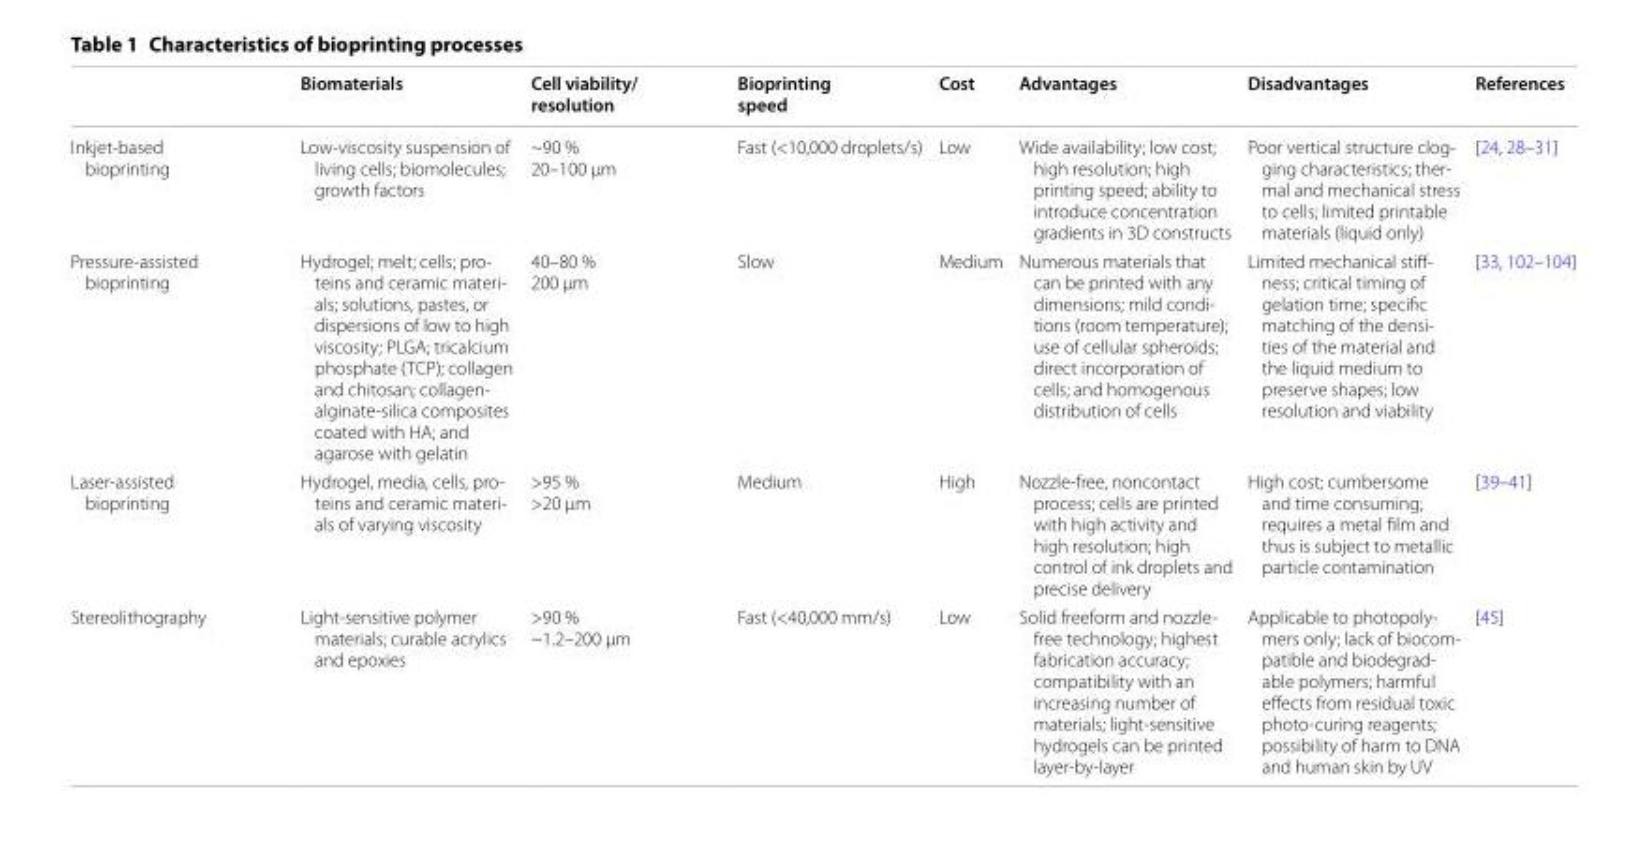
<table><thead><tr><td></td><td>Biomaterials</td><td>Cell viability/ resolution</td><td>Bioprinting speed</td><td>Cost</td><td>Advantages</td><td>Disadvantages</td><td>References</td></tr></thead><tbody><tr><td>Inkjet-based bioprinting</td><td>Low-viscosity suspension of living cells; biomolecules; growth factors</td><td>~90 % 20–100 µm</td><td>Fast (&lt;10,000 droplets/s)</td><td>Low</td><td>Wide availability; low cost; high resolution; high printing speed; ability to introduce concentration gradients in 3D constructs</td><td>Poor vertical structure clog- ging characteristics; ther- mal and mechanical stress to cells; limited printable materials (liquid only)</td><td>[24, 28–31]</td></tr><tr><td>Pressure-assisted bioprinting</td><td>Hydrogel; melt; cells; pro- teins and ceramic materi- als; solutions, pastes, or dispersions of low to high viscosity; PLGA; tricalcium phosphate (TCP); collagen and chitosan; collagen- alginate-silica composites coated with HA; and agarose with gelatin</td><td>40–80 % 200 µm</td><td>Slow</td><td>Medium</td><td>Numerous materials that can be printed with any dimensions; mild condi- tions (room temperature); use of cellular spheroids; direct incorporation of cells; and homogenous distribution of cells</td><td>Limited mechanical stiff- ness; critical timing of gelation time; specific matching of the densi- ties of the material and the liquid medium to preserve shapes; low resolution and viability</td><td>[33, 102–104]</td></tr><tr><td>Laser-assisted bioprinting</td><td>Hydrogel, media, cells, pro- teins and ceramic materi- als of varying viscosity</td><td>&gt;95 % &gt;20 µm</td><td>Medium</td><td>High</td><td>Nozzle-free, noncontact process; cells are printed with high activity and high resolution; high control of ink droplets and precise delivery</td><td>High cost; cumbersome and time consuming; requires a metal film and thus is subject to metallic particle contamination</td><td>[39–41]</td></tr><tr><td>Stereolithography</td><td>Light-sensitive polymer materials; curable acrylics and epoxies</td><td>&gt;90 % ~1.2–200 µm</td><td>Fast (&lt;40,000 mm/s)</td><td>Low</td><td>Solid freeform and nozzle- free technology; highest fabrication accuracy; compatibility with an increasing number of materials; light-sensitive hydrogels can be printed layer-by-layer</td><td>Applicable to photopoly- mers only; lack of biocom- patible and biodegrad- able polymers; harmful effects from residual toxic photo-curing reagents; possibility of harm to DNA and human skin by UV</td><td>[45]</td></tr></tbody></table>